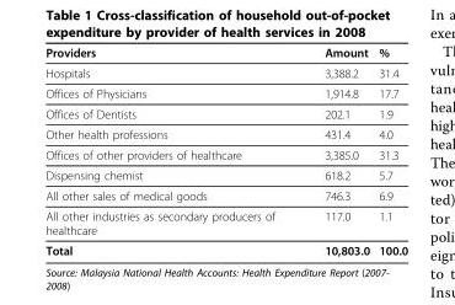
<table><thead><tr><td>Providers</td><td>Amount</td><td>%</td></tr></thead><tbody><tr><td>Hospitals</td><td>3,388.2</td><td>31.4</td></tr><tr><td>Offices of Physicians</td><td>1,914.8</td><td>17.7</td></tr><tr><td>Offices of Dentists</td><td>202.1</td><td>1.9</td></tr><tr><td>Other health professions</td><td>431.4</td><td>4.0</td></tr><tr><td>Offices of other providers of healthcare</td><td>3,385.0</td><td>31.3</td></tr><tr><td>Dispensing chemist</td><td>618.2</td><td>5.7</td></tr><tr><td>All other sales of medical goods</td><td>746.3</td><td>6.9</td></tr><tr><td>All other industries as secondary producers of healthcare</td><td>117.0</td><td>1.1</td></tr><tr><td>Total</td><td>10,803.0</td><td>100.0</td></tr></tbody></table>